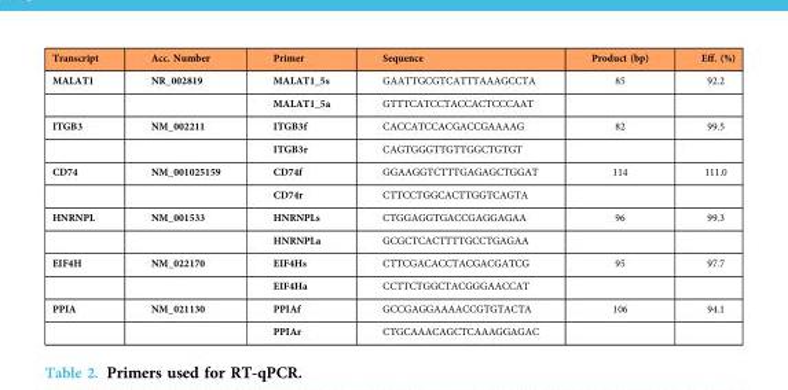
<table><thead><tr><td>Transcript</td><td>Acc. Number</td><td>Primer</td><td>Sequence</td><td>Product (bp)</td><td>Eff. (%)</td></tr></thead><tbody><tr><td rowspan="2">MALAT1</td><td>NR_002819</td><td>MALAT1_5s</td><td>GAATTGCGTCATTTAAAGCCTA</td><td>85</td><td>92.2</td></tr><tr><td></td><td>MALAT1_5a</td><td>GTTTCATCCTACCACTCCCAAT</td><td></td><td></td></tr><tr><td rowspan="2">ITGB3</td><td>NM_002211</td><td>ITGB3f</td><td>CACCATCCACGACCGAAAAG</td><td>82</td><td>99.5</td></tr><tr><td></td><td>ITGB3r</td><td>CAGTGGGTTGTTGGCTGTGT</td><td></td><td></td></tr><tr><td rowspan="2">CD74</td><td>NM_001025159</td><td>CD74f</td><td>GGAAGGTCTTTGAGAGCTGGAT</td><td>114</td><td>111.0</td></tr><tr><td></td><td>CD74r</td><td>CTTCCTGGCACTTGGTCAGTA</td><td></td><td></td></tr><tr><td rowspan="2">HNRNPL</td><td>NM_001533</td><td>HNRNPLs</td><td>CTGGAGGTGACCGAGGAGAA</td><td>96</td><td>99.3</td></tr><tr><td></td><td>HNRNPLa</td><td>GCGCTCACTTTTGCCTGAGAA</td><td></td><td></td></tr><tr><td rowspan="2">EIF4H</td><td>NM_022170</td><td>EIF4Hs</td><td>CTTCGACACCTACGACGATCG</td><td>95</td><td>97.7</td></tr><tr><td></td><td>EIF4Ha</td><td>CCTTCTGGCTACGGGAACCAT</td><td></td><td></td></tr><tr><td rowspan="2">PPIA</td><td>NM_021130</td><td>PPIAf</td><td>GCCGAGGAAAACCGTGTACTA</td><td>106</td><td>94.1</td></tr><tr><td></td><td>PPIAr</td><td>CTGCAAACAGCTCAAAGGAGAC</td><td></td><td></td></tr></tbody></table>